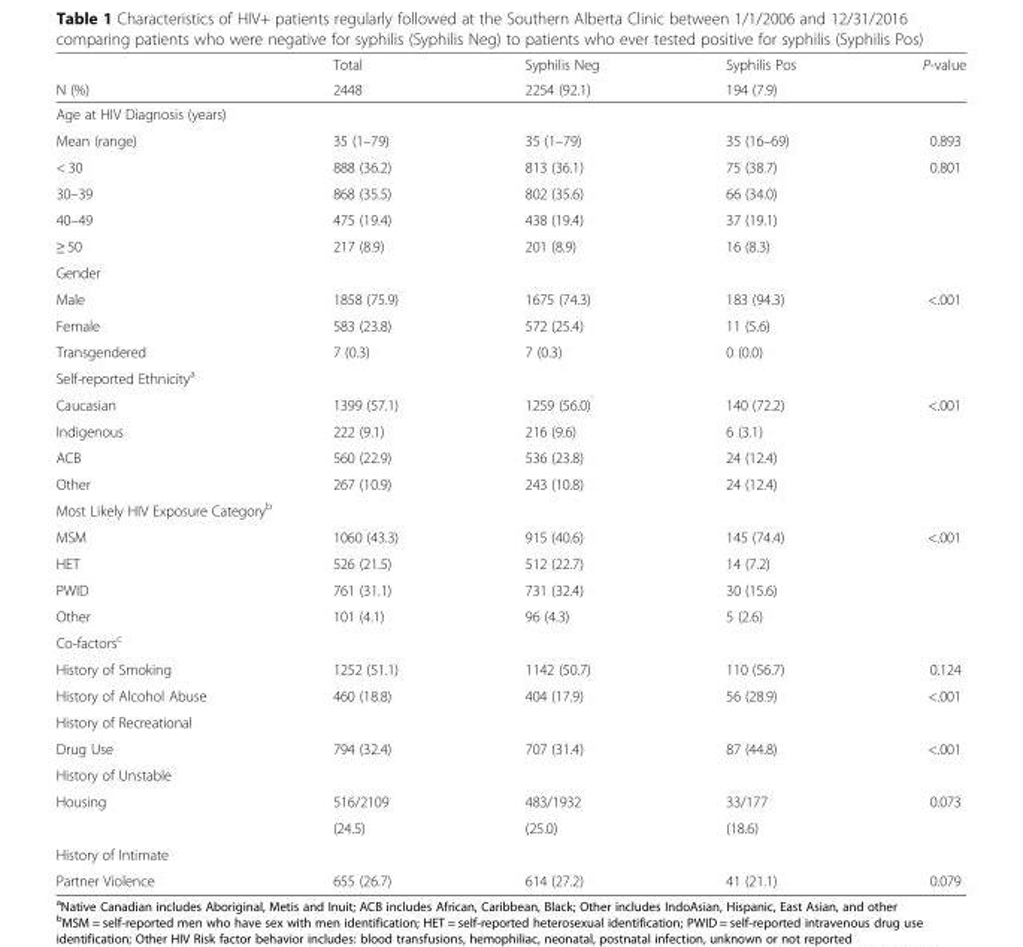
<table><thead><tr><td rowspan="2">N (%)</td><td rowspan="2">Total 2448</td><td rowspan="2">Syphilis Neg 2254 (92.1)</td><td rowspan="2">Syphilis Pos 194 (7.9)</td><td rowspan="2">P-value</td></tr><tr></tr></thead><tbody><tr><td colspan="5">Age at HIV Diagnosis (years)</td></tr><tr><td>Mean (range)</td><td>35 (1–79)</td><td>35 (1–79)</td><td>35 (16–69)</td><td>0.893</td></tr><tr><td>&lt; 30</td><td>888 (36.2)</td><td>813 (36.1)</td><td>75 (38.7)</td><td>0.801</td></tr><tr><td>30–39</td><td>868 (35.5)</td><td>802 (35.6)</td><td>66 (34.0)</td><td></td></tr><tr><td>40–49</td><td>475 (19.4)</td><td>438 (19.4)</td><td>37 (19.1)</td><td></td></tr><tr><td>≥ 50</td><td>217 (8.9)</td><td>201 (8.9)</td><td>16 (8.3)</td><td></td></tr><tr><td colspan="5">Gender</td></tr><tr><td>Male</td><td>1858 (75.9)</td><td>1675 (74.3)</td><td>183 (94.3)</td><td>&lt;.001</td></tr><tr><td>Female</td><td>583 (23.8)</td><td>572 (25.4)</td><td>11 (5.6)</td><td></td></tr><tr><td>Transgendered</td><td>7 (0.3)</td><td>7 (0.3)</td><td>0 (0.0)</td><td></td></tr><tr><td colspan="5">Self-reported Ethnicity<sup>a</sup></td></tr><tr><td>Caucasian</td><td>1399 (57.1)</td><td>1259 (56.0)</td><td>140 (72.2)</td><td>&lt;.001</td></tr><tr><td>Indigenous</td><td>222 (9.1)</td><td>216 (9.6)</td><td>6 (3.1)</td><td></td></tr><tr><td>ACB</td><td>560 (22.9)</td><td>536 (23.8)</td><td>24 (12.4)</td><td></td></tr><tr><td>Other</td><td>267 (10.9)</td><td>243 (10.8)</td><td>24 (12.4)</td><td></td></tr><tr><td colspan="5">Most Likely HIV Exposure Category<sup>b</sup></td></tr><tr><td>MSM</td><td>1060 (43.3)</td><td>915 (40.6)</td><td>145 (74.4)</td><td>&lt;.001</td></tr><tr><td>HET</td><td>526 (21.5)</td><td>512 (22.7)</td><td>14 (7.2)</td><td></td></tr><tr><td>PWID</td><td>761 (31.1)</td><td>731 (32.4)</td><td>30 (15.6)</td><td></td></tr><tr><td>Other</td><td>101 (4.1)</td><td>96 (4.3)</td><td>5 (2.6)</td><td></td></tr><tr><td colspan="5">Co-factors<sup>c</sup></td></tr><tr><td>History of Smoking</td><td>1252 (51.1)</td><td>1142 (50.7)</td><td>110 (56.7)</td><td>0.124</td></tr><tr><td>History of Alcohol Abuse</td><td>460 (18.8)</td><td>404 (17.9)</td><td>56 (28.9)</td><td>&lt;.001</td></tr><tr><td colspan="5">History of Recreational</td></tr><tr><td>Drug Use</td><td>794 (32.4)</td><td>707 (31.4)</td><td>87 (44.8)</td><td>&lt;.001</td></tr><tr><td colspan="5">History of Unstable</td></tr><tr><td rowspan="2">Housing</td><td>516/2109</td><td>483/1932</td><td>33/177</td><td>0.073</td></tr><tr><td>(24.5)</td><td>(25.0)</td><td>(18.6)</td><td></td></tr><tr><td colspan="5">History of Intimate</td></tr><tr><td>Partner Violence</td><td>655 (26.7)</td><td>614 (27.2)</td><td>41 (21.1)</td><td>0.079</td></tr></tbody></table>